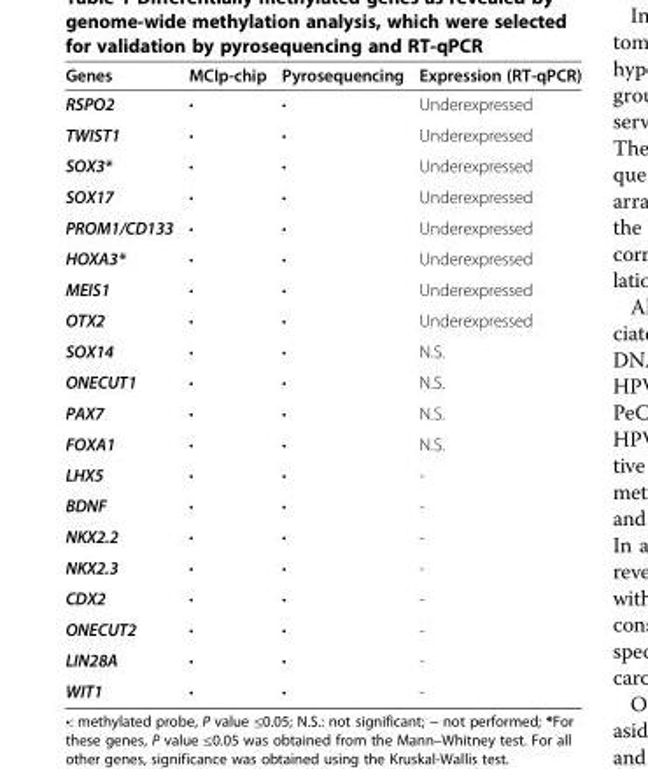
<table><thead><tr><td>Genes</td><td>MCIp-chip</td><td>Pyrosequencing</td><td>Expression (RT-qPCR)</td></tr></thead><tbody><tr><td>RSPO2</td><td>•</td><td>•</td><td>Underexpressed</td></tr><tr><td>TWIST1</td><td>•</td><td>•</td><td>Underexpressed</td></tr><tr><td>SOX3*</td><td>•</td><td>•</td><td>Underexpressed</td></tr><tr><td>SOX17</td><td>•</td><td>•</td><td>Underexpressed</td></tr><tr><td>PROM1/CD133</td><td>•</td><td>•</td><td>Underexpressed</td></tr><tr><td>HOXA3*</td><td>•</td><td>•</td><td>Underexpressed</td></tr><tr><td>MEIS1</td><td>•</td><td>•</td><td>Underexpressed</td></tr><tr><td>OTX2</td><td>•</td><td>•</td><td>Underexpressed</td></tr><tr><td>SOX14</td><td>•</td><td>•</td><td>N.S.</td></tr><tr><td>ONECUT1</td><td>•</td><td>•</td><td>N.S.</td></tr><tr><td>PAX7</td><td>•</td><td>•</td><td>N.S.</td></tr><tr><td>FOXA1</td><td>•</td><td>•</td><td>N.S.</td></tr><tr><td>LHX5</td><td>•</td><td>•</td><td>-</td></tr><tr><td>BDNF</td><td>•</td><td>•</td><td>-</td></tr><tr><td>NKX2.2</td><td>•</td><td>•</td><td>-</td></tr><tr><td>NKX2.3</td><td>•</td><td>•</td><td>-</td></tr><tr><td>CDX2</td><td>•</td><td>•</td><td>-</td></tr><tr><td>ONECUT2</td><td>•</td><td>•</td><td>-</td></tr><tr><td>LIN28A</td><td>•</td><td>•</td><td>-</td></tr><tr><td>WIT1</td><td>•</td><td>•</td><td>-</td></tr></tbody></table>